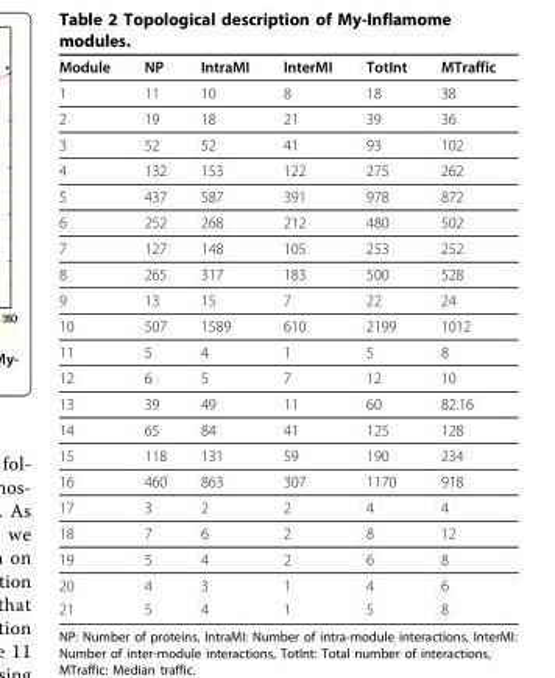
<table><thead><tr><td>Module</td><td>NP</td><td>IntraMI</td><td>InterMI</td><td>TotInt</td><td>MTraffic</td></tr></thead><tbody><tr><td>1</td><td>11</td><td>10</td><td>8</td><td>18</td><td>38</td></tr><tr><td>2</td><td>19</td><td>18</td><td>21</td><td>39</td><td>36</td></tr><tr><td>3</td><td>52</td><td>52</td><td>41</td><td>93</td><td>102</td></tr><tr><td>4</td><td>132</td><td>153</td><td>122</td><td>275</td><td>262</td></tr><tr><td>5</td><td>437</td><td>587</td><td>391</td><td>978</td><td>872</td></tr><tr><td>6</td><td>252</td><td>268</td><td>212</td><td>480</td><td>502</td></tr><tr><td>7</td><td>127</td><td>148</td><td>105</td><td>253</td><td>252</td></tr><tr><td>8</td><td>265</td><td>317</td><td>183</td><td>500</td><td>528</td></tr><tr><td>9</td><td>13</td><td>15</td><td>7</td><td>22</td><td>24</td></tr><tr><td>10</td><td>507</td><td>1589</td><td>610</td><td>2199</td><td>1012</td></tr><tr><td>11</td><td>5</td><td>4</td><td>1</td><td>5</td><td>8</td></tr><tr><td>12</td><td>6</td><td>5</td><td>7</td><td>12</td><td>10</td></tr><tr><td>13</td><td>39</td><td>49</td><td>11</td><td>60</td><td>82.16</td></tr><tr><td>14</td><td>65</td><td>84</td><td>41</td><td>125</td><td>128</td></tr><tr><td>15</td><td>118</td><td>131</td><td>59</td><td>190</td><td>234</td></tr><tr><td>16</td><td>460</td><td>863</td><td>307</td><td>1170</td><td>918</td></tr><tr><td>17</td><td>3</td><td>2</td><td>2</td><td>4</td><td>4</td></tr><tr><td>18</td><td>7</td><td>6</td><td>2</td><td>8</td><td>12</td></tr><tr><td>19</td><td>5</td><td>4</td><td>2</td><td>6</td><td>8</td></tr><tr><td>20</td><td>4</td><td>3</td><td>1</td><td>4</td><td>6</td></tr><tr><td>21</td><td>5</td><td>4</td><td>1</td><td>5</td><td>8</td></tr></tbody></table>